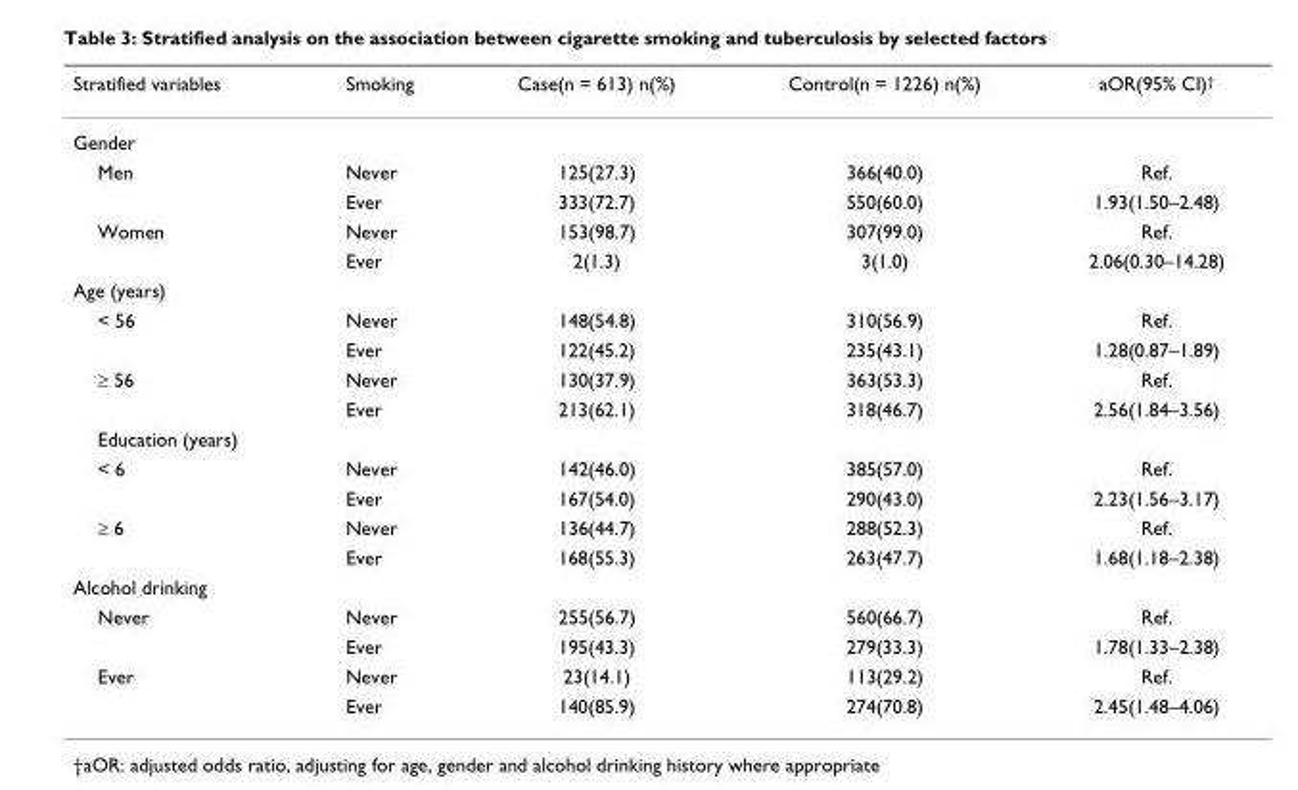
<table><thead><tr><td>Stratified variables</td><td>Smoking</td><td>Case(n = 613) n(%)</td><td>Control(n = 1226) n(%)</td><td>aOR(95% CI)<sup>†</sup></td></tr></thead><tbody><tr><td colspan="5">Gender</td></tr><tr><td rowspan="2">Men</td><td>Never</td><td>125(27.3)</td><td>366(40.0)</td><td>Ref.</td></tr><tr><td>Ever</td><td>333(72.7)</td><td>550(60.0)</td><td>1.93(1.50–2.48)</td></tr><tr><td rowspan="2">Women</td><td>Never</td><td>153(98.7)</td><td>307(99.0)</td><td>Ref.</td></tr><tr><td>Ever</td><td>2(1.3)</td><td>3(1.0)</td><td>2.06(0.30–14.28)</td></tr><tr><td colspan="5">Age (years)</td></tr><tr><td rowspan="2">&lt; 56</td><td>Never</td><td>148(54.8)</td><td>310(56.9)</td><td>Ref.</td></tr><tr><td>Ever</td><td>122(45.2)</td><td>235(43.1)</td><td>1.28(0.87–1.89)</td></tr><tr><td rowspan="2">≥ 56</td><td>Never</td><td>130(37.9)</td><td>363(53.3)</td><td>Ref.</td></tr><tr><td>Ever</td><td>213(62.1)</td><td>318(46.7)</td><td>2.56(1.84–3.56)</td></tr><tr><td colspan="5">Education (years)</td></tr><tr><td rowspan="2">&lt; 6</td><td>Never</td><td>142(46.0)</td><td>385(57.0)</td><td>Ref.</td></tr><tr><td>Ever</td><td>167(54.0)</td><td>290(43.0)</td><td>2.23(1.56–3.17)</td></tr><tr><td rowspan="2">≥ 6</td><td>Never</td><td>136(44.7)</td><td>288(52.3)</td><td>Ref.</td></tr><tr><td>Ever</td><td>168(55.3)</td><td>263(47.7)</td><td>1.68(1.18–2.38)</td></tr><tr><td colspan="5">Alcohol drinking</td></tr><tr><td rowspan="2">Never</td><td>Never</td><td>255(56.7)</td><td>560(66.7)</td><td>Ref.</td></tr><tr><td>Ever</td><td>195(43.3)</td><td>279(33.3)</td><td>1.78(1.33–2.38)</td></tr><tr><td rowspan="2">Ever</td><td>Never</td><td>23(14.1)</td><td>113(29.2)</td><td>Ref.</td></tr><tr><td>Ever</td><td>140(85.9)</td><td>274(70.8)</td><td>2.45(1.48–4.06)</td></tr></tbody></table>